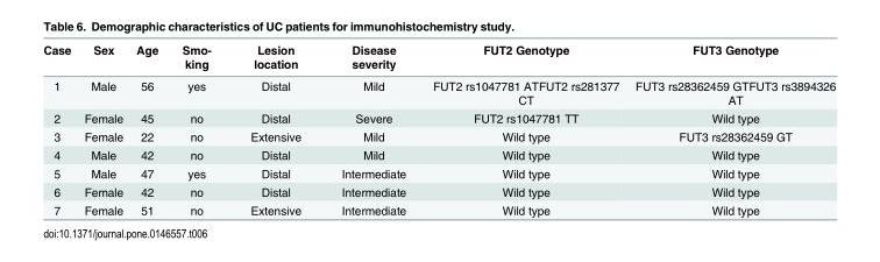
<table><thead><tr><td>Case</td><td>Sex</td><td>Age</td><td>Smo- king</td><td>Lesion location</td><td>Disease severity</td><td>FUT2 Genotype</td><td>FUT3 Genotype</td></tr></thead><tbody><tr><td>1</td><td>Male</td><td>56</td><td>yes</td><td>Distal</td><td>Mild</td><td>FUT2 rs1047781 ATFUT2 rs281377 CT</td><td>FUT3 rs28362459 GTFUT3 rs3894326 AT</td></tr><tr><td>2</td><td>Female</td><td>45</td><td>no</td><td>Distal</td><td>Severe</td><td>FUT2 rs1047781 TT</td><td>Wild type</td></tr><tr><td>3</td><td>Female</td><td>22</td><td>no</td><td>Extensive</td><td>Mild</td><td>Wild type</td><td>FUT3 rs28362459 GT</td></tr><tr><td>4</td><td>Male</td><td>42</td><td>no</td><td>Distal</td><td>Mild</td><td>Wild type</td><td>Wild type</td></tr><tr><td>5</td><td>Male</td><td>47</td><td>yes</td><td>Distal</td><td>Intermediate</td><td>Wild type</td><td>Wild type</td></tr><tr><td>6</td><td>Female</td><td>42</td><td>no</td><td>Distal</td><td>Intermediate</td><td>Wild type</td><td>Wild type</td></tr><tr><td>7</td><td>Female</td><td>51</td><td>no</td><td>Extensive</td><td>Intermediate</td><td>Wild type</td><td>Wild type</td></tr></tbody></table>